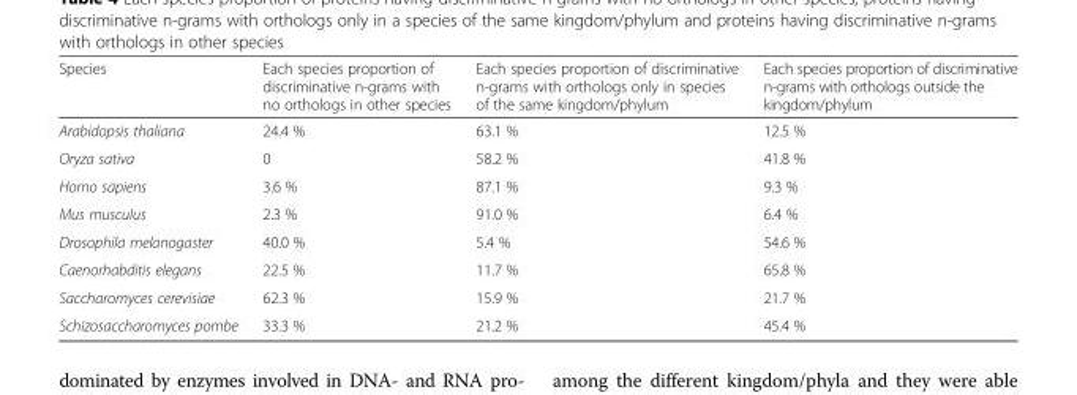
<table><thead><tr><td>Species</td><td>Each species proportion of discriminative n-grams with no orthologs in other species</td><td>Each species proportion of discriminative n-grams with orthologs only in species of the same kingdom/phylum</td><td>Each species proportion of discriminative n-grams with orthologs outside the kingdom/phylum</td></tr></thead><tbody><tr><td>Arabidopsis thaliana</td><td>24.4 %</td><td>63.1 %</td><td>12.5 %</td></tr><tr><td>Oryza sativa</td><td>0</td><td>58.2 %</td><td>41.8 %</td></tr><tr><td>Homo sapiens</td><td>3.6 %</td><td>87.1 %</td><td>9.3 %</td></tr><tr><td>Mus musculus</td><td>2.3 %</td><td>91.0 %</td><td>6.4 %</td></tr><tr><td>Drosophila melanogaster</td><td>40.0 %</td><td>5.4 %</td><td>54.6 %</td></tr><tr><td>Caenorhabditis elegans</td><td>22.5 %</td><td>11.7 %</td><td>65.8 %</td></tr><tr><td>Saccharomyces cerevisiae</td><td>62.3 %</td><td>15.9 %</td><td>21.7 %</td></tr><tr><td>Schizosaccharomyces pombe</td><td>33.3 %</td><td>21.2 %</td><td>45.4 %</td></tr></tbody></table>